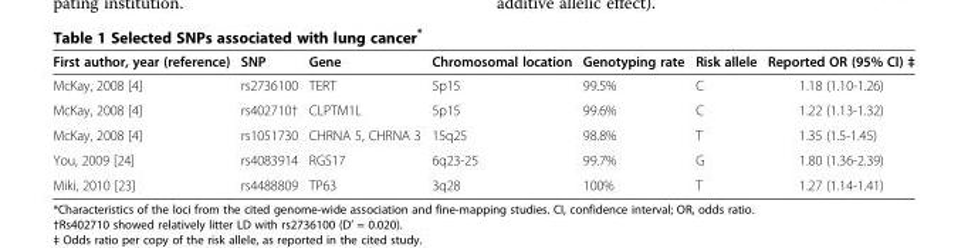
<table><thead><tr><td>First author, year (reference)</td><td>SNP</td><td>Gene</td><td>Chromosomal location</td><td>Genotyping rate</td><td>Risk allele</td><td>Reported OR (95% CI) ‡</td></tr></thead><tbody><tr><td>McKay, 2008 [4]</td><td>rs2736100</td><td>TERT</td><td>5p15</td><td>99.5%</td><td>C</td><td>1.18 (1.10-1.26)</td></tr><tr><td>McKay, 2008 [4]</td><td>rs402710†</td><td>CLPTM1L</td><td>5p15</td><td>99.6%</td><td>C</td><td>1.22 (1.13-1.32)</td></tr><tr><td>McKay, 2008 [4]</td><td>rs1051730</td><td>CHRNA 5, CHRNA 3</td><td>15q25</td><td>98.8%</td><td>T</td><td>1.35 (1.5-1.45)</td></tr><tr><td>You, 2009 [24]</td><td>rs4083914</td><td>RGS17</td><td>6q23-25</td><td>99.7%</td><td>G</td><td>1.80 (1.36-2.39)</td></tr><tr><td>Miki, 2010 [23]</td><td>rs4488809</td><td>TP63</td><td>3q28</td><td>100%</td><td>T</td><td>1.27 (1.14-1.41)</td></tr></tbody></table>